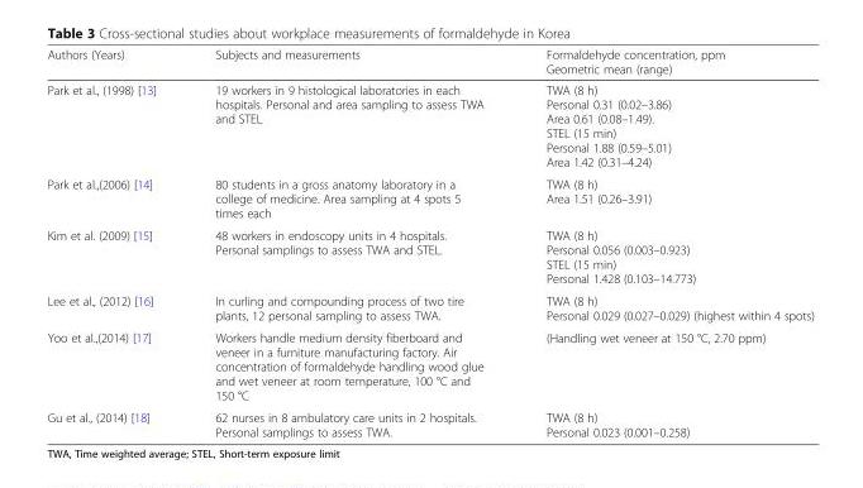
<table><thead><tr><td>Authors (Years)</td><td>Subjects and measurements</td><td>Formaldehyde concentration, ppm Geometric mean (range)</td></tr></thead><tbody><tr><td>Park et al., (1998) [13]</td><td>19 workers in 9 histological laboratories in each hospitals. Personal and area sampling to assess TWA and STEL</td><td>TWA (8 h) Personal 0.31 (0.02–3.86) Area 0.61 (0.08–1.49). STEL (15 min) Personal 1.88 (0.59–5.01) Area 1.42 (0.31–4.24)</td></tr><tr><td>Park et al.,(2006) [14]</td><td>80 students in a gross anatomy laboratory in a college of medicine. Area sampling at 4 spots 5 times each</td><td>TWA (8 h) Area 1.51 (0.26–3.91)</td></tr><tr><td>Kim et al. (2009) [15]</td><td>48 workers in endoscopy units in 4 hospitals. Personal samplings to assess TWA and STEL.</td><td>TWA (8 h) Personal 0.056 (0.003–0.923) STEL (15 min) Personal 1.428 (0.103–14.773)</td></tr><tr><td>Lee et al., (2012) [16]</td><td>In curling and compounding process of two tire plants, 12 personal sampling to assess TWA.</td><td>TWA (8 h) Personal 0.029 (0.027–0.029) (highest within 4 spots)</td></tr><tr><td>Yoo et al.,(2014) [17]</td><td>Workers handle medium density fiberboard and veneer in a furniture manufacturing factory. Air concentration of formaldehyde handling wood glue and wet veneer at room temperature, 100 °C and 150 °C</td><td>(Handling wet veneer at 150 °C, 2.70 ppm)</td></tr><tr><td>Gu et al., (2014) [18]</td><td>62 nurses in 8 ambulatory care units in 2 hospitals. Personal samplings to assess TWA.</td><td>TWA (8 h) Personal 0.023 (0.001–0.258)</td></tr></tbody></table>